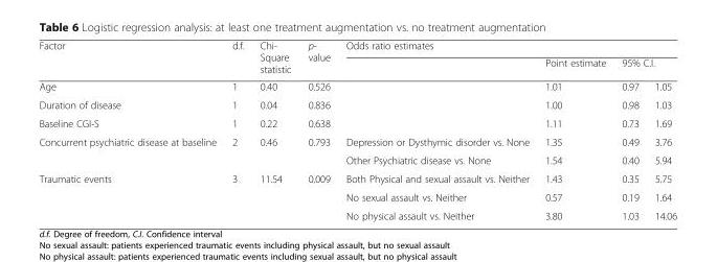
<table><thead><tr><td rowspan="3">Factor Age</td><td rowspan="3">d.f. 1</td><td rowspan="3">Chi- Square statistic 0.40</td><td rowspan="3">p- value 0.526</td><td colspan="4">Odds ratio estimates</td></tr><tr><td rowspan="2"></td><td rowspan="2">Point estimate 1.01</td><td colspan="2">95% C.I.</td></tr><tr><td>0.97</td><td>1.05</td></tr></thead><tbody><tr><td>Duration of disease</td><td>1</td><td>0.04</td><td>0.836</td><td></td><td>1.00</td><td>0.98</td><td>1.03</td></tr><tr><td>Baseline CGI-S</td><td>1</td><td>0.22</td><td>0.638</td><td></td><td>1.11</td><td>0.73</td><td>1.69</td></tr><tr><td rowspan="2">Concurrent psychiatric disease at baseline</td><td rowspan="2">2</td><td rowspan="2">0.46</td><td rowspan="2">0.793</td><td>Depression or Dysthymic disorder vs. None</td><td>1.35</td><td>0.49</td><td>3.76</td></tr><tr><td>Other Psychiatric disease vs. None</td><td>1.54</td><td>0.40</td><td>5.94</td></tr><tr><td rowspan="3">Traumatic events</td><td rowspan="3">3</td><td rowspan="3">11.54</td><td rowspan="3">0.009</td><td>Both Physical and sexual assault vs. Neither</td><td>1.43</td><td>0.35</td><td>5.75</td></tr><tr><td>No sexual assault vs. Neither</td><td>0.57</td><td>0.19</td><td>1.64</td></tr><tr><td>No physical assault vs. Neither</td><td>3.80</td><td>1.03</td><td>14.06</td></tr></tbody></table>